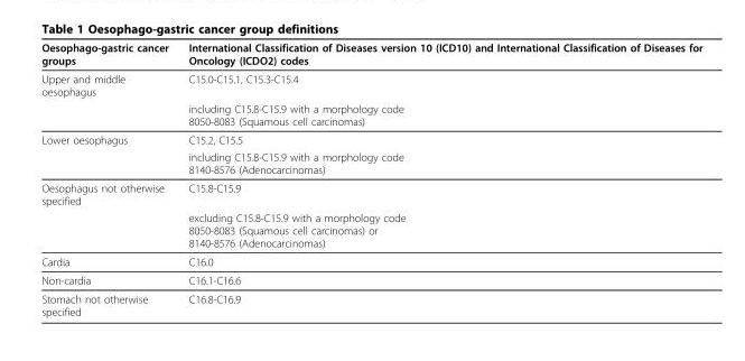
<table><thead><tr><td>Oesophago-gastric cancer groups</td><td>International Classification of Diseases version 10 (ICD10) and International Classification of Diseases for Oncology (ICDO2) codes</td></tr></thead><tbody><tr><td rowspan="2">Upper and middle oesophagus</td><td>C15.0-C15.1, C15.3-C15.4</td></tr><tr><td>including C15.8-C15.9 with a morphology code 8050-8083 (Squamous cell carcinomas)</td></tr><tr><td rowspan="2">Lower oesophagus</td><td>C15.2, C15.5</td></tr><tr><td>including C15.8-C15.9 with a morphology code 8140-8576 (Adenocarcinomas)</td></tr><tr><td rowspan="2">Oesophagus not otherwise specified</td><td>C15.8-C15.9</td></tr><tr><td>excluding C15.8-C15.9 with a morphology code 8050-8083 (Squamous cell carcinomas) or 8140-8576 (Adenocarcinomas)</td></tr><tr><td>Cardia</td><td>C16.0</td></tr><tr><td>Non-cardia</td><td>C16.1-C16.6</td></tr><tr><td>Stomach not otherwise specified</td><td>C16.8-C16.9</td></tr></tbody></table>